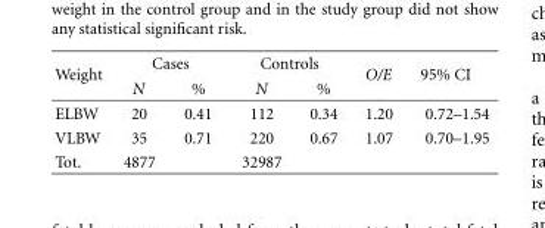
<table><thead><tr><td rowspan="2">Weight</td><td colspan="2">Cases</td><td colspan="2">Controls</td><td rowspan="2">O/E</td><td rowspan="2">95% CI</td></tr><tr><td>N</td><td>%</td><td>N</td><td>%</td></tr></thead><tbody><tr><td>ELBW</td><td>20</td><td>0.41</td><td>112</td><td>0.34</td><td>1.20</td><td>0.72–1.54</td></tr><tr><td>VLBW</td><td>35</td><td>0.71</td><td>220</td><td>0.67</td><td>1.07</td><td>0.70–1.95</td></tr><tr><td>Tot.</td><td>4877</td><td></td><td>32987</td><td></td><td></td><td></td></tr></tbody></table>